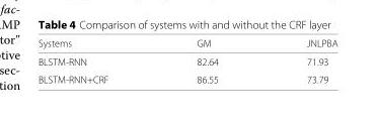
<table><thead><tr><td>Systems</td><td>GM</td><td>JNLPBA</td></tr></thead><tbody><tr><td>BLSTM-RNN</td><td>82.64</td><td>71.93</td></tr><tr><td>BLSTM-RNN+CRF</td><td>86.55</td><td>73.79</td></tr></tbody></table>